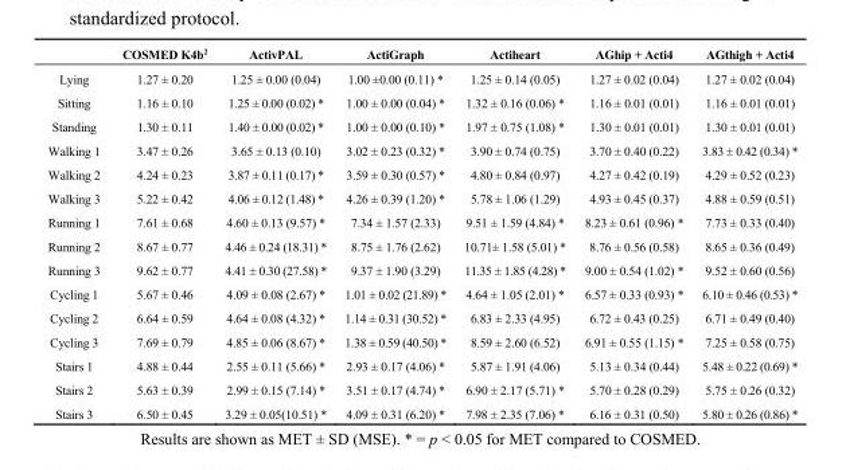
<table><thead><tr><td></td><td>COSMED K4b<sup>2</sup></td><td>ActivPAL</td><td>ActiGraph</td><td>Actiheart</td><td>AGhip + Acti4</td><td>AGthigh + Acti4</td></tr></thead><tbody><tr><td>Lying</td><td>1.27 ± 0.20</td><td>1.25 ± 0.00 (0.04)</td><td>1.00 ±0.00 (0.11) *</td><td>1.25 ± 0.14 (0.05)</td><td>1.27 ± 0.02 (0.04)</td><td>1.27 ± 0.02 (0.04)</td></tr><tr><td>Sitting</td><td>1.16 ± 0.10</td><td>1.25 ± 0.00 (0.02) *</td><td>1.00 ± 0.00 (0.04) *</td><td>1.32 ± 0.16 (0.06) *</td><td>1.16 ± 0.01 (0.01)</td><td>1.16 ± 0.01 (0.01)</td></tr><tr><td>Standing</td><td>1.30 ± 0.11</td><td>1.40 ± 0.00 (0.02) *</td><td>1.00 ± 0.00 (0.10) *</td><td>1.97 ± 0.75 (1.08) *</td><td>1.30 ± 0.01 (0.01)</td><td>1.30 ± 0.01 (0.01)</td></tr><tr><td>Walking 1</td><td>3.47 ± 0.26</td><td>3.65 ± 0.13 (0.10)</td><td>3.02 ± 0.23 (0.32) *</td><td>3.90 ± 0.74 (0.75)</td><td>3.70 ± 0.40 (0.22)</td><td>3.83 ± 0.42 (0.34) *</td></tr><tr><td>Walking 2</td><td>4.24 ± 0.23</td><td>3.87 ± 0.11 (0.17) *</td><td>3.59 ± 0.30 (0.57) *</td><td>4.80 ± 0.84 (0.97)</td><td>4.27 ± 0.42 (0.19)</td><td>4.29 ± 0.52 (0.23)</td></tr><tr><td>Walking 3</td><td>5.22 ± 0.42</td><td>4.06 ± 0.12 (1.48) *</td><td>4.26 ± 0.39 (1.20) *</td><td>5.78 ± 1.06 (1.29)</td><td>4.93 ± 0.45 (0.37)</td><td>4.88 ± 0.59 (0.51)</td></tr><tr><td>Running 1</td><td>7.61 ± 0.68</td><td>4.60 ± 0.13 (9.57) *</td><td>7.34 ± 1.57 (2.33)</td><td>9.51 ± 1.59 (4.84) *</td><td>8.23 ± 0.61 (0.96) *</td><td>7.73 ± 0.33 (0.40)</td></tr><tr><td>Running 2</td><td>8.67 ± 0.77</td><td>4.46 ± 0.24 (18.31) *</td><td>8.75 ± 1.76 (2.62)</td><td>10.71± 1.58 (5.01) *</td><td>8.76 ± 0.56 (0.58)</td><td>8.65 ± 0.36 (0.49)</td></tr><tr><td>Running 3</td><td>9.62 ± 0.77</td><td>4.41 ± 0.30 (27.58) *</td><td>9.37 ± 1.90 (3.29)</td><td>11.35 ± 1.85 (4.28) *</td><td>9.00 ± 0.54 (1.02) *</td><td>9.52 ± 0.60 (0.56)</td></tr><tr><td>Cycling 1</td><td>5.67 ± 0.46</td><td>4.09 ± 0.08 (2.67) *</td><td>1.01 ± 0.02 (21.89) *</td><td>4.64 ± 1.05 (2.01) *</td><td>6.57 ± 0.33 (0.93) *</td><td>6.10 ± 0.46 (0.53) *</td></tr><tr><td>Cycling 2</td><td>6.64 ± 0.59</td><td>4.64 ± 0.08 (4.32) *</td><td>1.14 ± 0.31 (30.52) *</td><td>6.83 ± 2.33 (4.95)</td><td>6.72 ± 0.43 (0.25)</td><td>6.71 ± 0.49 (0.40)</td></tr><tr><td>Cycling 3</td><td>7.69 ± 0.79</td><td>4.85 ± 0.06 (8.67) *</td><td>1.38 ± 0.59 (40.50) *</td><td>8.59 ± 2.60 (6.52)</td><td>6.91 ± 0.55 (1.15) *</td><td>7.25 ± 0.58 (0.75)</td></tr><tr><td>Stairs 1</td><td>4.88 ± 0.44</td><td>2.55 ± 0.11 (5.66) *</td><td>2.93 ± 0.17 (4.06) *</td><td>5.87 ± 1.91 (4.06)</td><td>5.13 ± 0.34 (0.44)</td><td>5.48 ± 0.22 (0.69) *</td></tr><tr><td>Stairs 2</td><td>5.63 ± 0.39</td><td>2.99 ± 0.15 (7.14) *</td><td>3.51 ± 0.17 (4.74) *</td><td>6.90 ± 2.17 (5.71) *</td><td>5.70 ± 0.28 (0.29)</td><td>5.75 ± 0.26 (0.32)</td></tr><tr><td>Stairs 3</td><td>6.50 ± 0.45</td><td>3.29 ± 0.05(10.51) *</td><td>4.09 ± 0.31 (6.20) *</td><td>7.98 ± 2.35 (7.06) *</td><td>6.16 ± 0.31 (0.50)</td><td>5.80 ± 0.26 (0.86) *</td></tr></tbody></table>